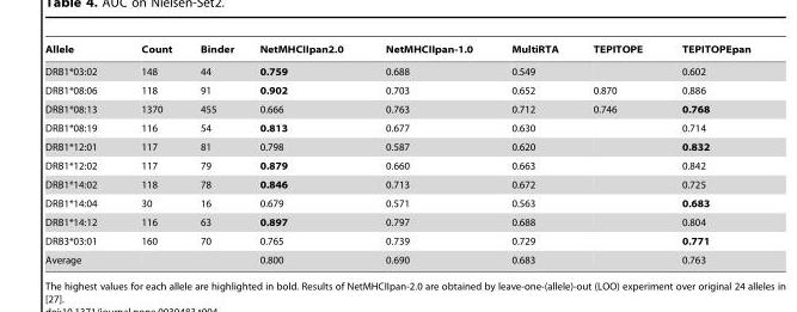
<table><thead><tr><td>Allele</td><td>Count</td><td>Binder</td><td>NetMHCIIpan2.0</td><td>NetMHCIIpan-1.0</td><td>MultiRTA</td><td>TEPITOPE</td><td>TEPITOPEpan</td></tr></thead><tbody><tr><td>DRB1*03:02</td><td>148</td><td>44</td><td>0.759</td><td>0.688</td><td>0.549</td><td></td><td>0.602</td></tr><tr><td>DRB1*08:06</td><td>118</td><td>91</td><td>0.902</td><td>0.703</td><td>0.652</td><td>0.870</td><td>0.886</td></tr><tr><td>DRB1*08:13</td><td>1370</td><td>455</td><td>0.666</td><td>0.763</td><td>0.712</td><td>0.746</td><td>0.768</td></tr><tr><td>DRB1*08:19</td><td>116</td><td>54</td><td>0.813</td><td>0.677</td><td>0.630</td><td></td><td>0.714</td></tr><tr><td>DRB1*12:01</td><td>117</td><td>81</td><td>0.798</td><td>0.587</td><td>0.620</td><td></td><td>0.832</td></tr><tr><td>DRB1*12:02</td><td>117</td><td>79</td><td>0.879</td><td>0.660</td><td>0.663</td><td></td><td>0.842</td></tr><tr><td>DRB1*14:02</td><td>118</td><td>78</td><td>0.846</td><td>0.713</td><td>0.672</td><td></td><td>0.725</td></tr><tr><td>DRB1*14:04</td><td>30</td><td>16</td><td>0.679</td><td>0.571</td><td>0.563</td><td></td><td>0.683</td></tr><tr><td>DRB1*14:12</td><td>116</td><td>63</td><td>0.897</td><td>0.797</td><td>0.688</td><td></td><td>0.804</td></tr><tr><td>DRB3*03:01</td><td>160</td><td>70</td><td>0.765</td><td>0.739</td><td>0.729</td><td></td><td>0.771</td></tr><tr><td>Average</td><td></td><td></td><td>0.800</td><td>0.690</td><td>0.683</td><td></td><td>0.763</td></tr></tbody></table>